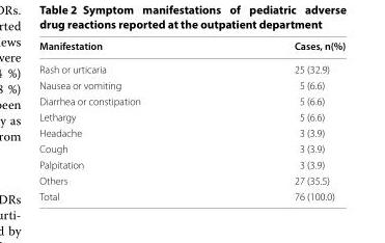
<table><thead><tr><td>Manifestation</td><td>Cases, n(%)</td></tr></thead><tbody><tr><td>Rash or urticaria</td><td>25 (32.9)</td></tr><tr><td>Nausea or vomiting</td><td>5 (6.6)</td></tr><tr><td>Diarrhea or constipation</td><td>5 (6.6)</td></tr><tr><td>Lethargy</td><td>5 (6.6)</td></tr><tr><td>Headache</td><td>3 (3.9)</td></tr><tr><td>Cough</td><td>3 (3.9)</td></tr><tr><td>Palpitation</td><td>3 (3.9)</td></tr><tr><td>Others</td><td>27 (35.5)</td></tr><tr><td>Total</td><td>76 (100.0)</td></tr></tbody></table>